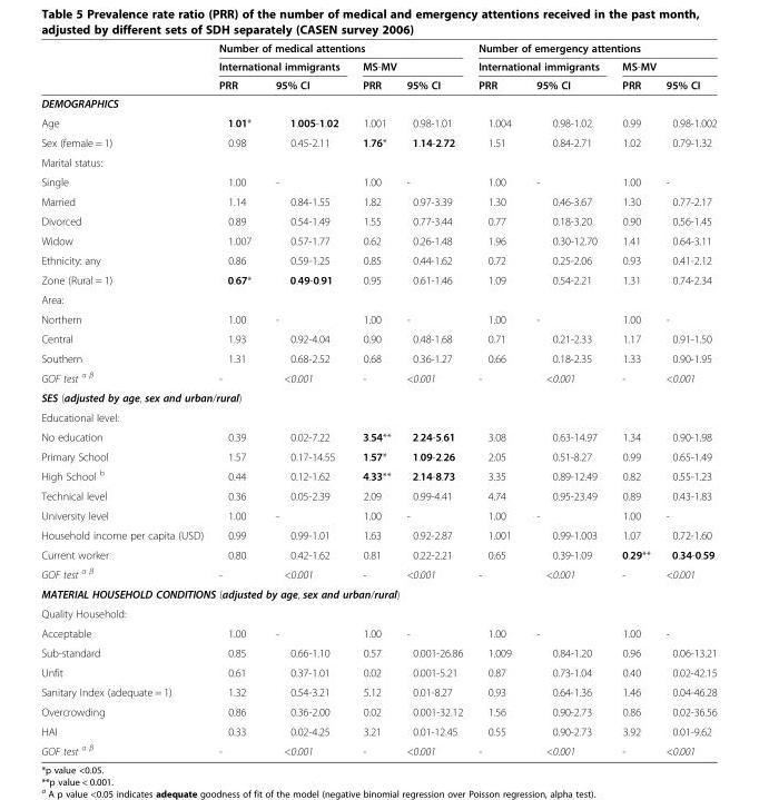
<table><thead><tr><td rowspan="3"></td><td colspan="4">Number of medical attentions</td><td colspan="4">Number of emergency attentions</td></tr><tr><td colspan="2">International immigrants</td><td colspan="2">MS-MV</td><td colspan="2">International immigrants</td><td colspan="2">MS-MV</td></tr><tr><td>PRR</td><td>95% CI</td><td>PRR</td><td>95% CI</td><td>PRR</td><td>95% CI</td><td>PRR</td><td>95% CI</td></tr></thead><tbody><tr><td colspan="9">DEMOGRAPHICS</td></tr><tr><td>Age</td><td>1.01*</td><td>1.005-1.02</td><td>1.001</td><td>0.98-1.01</td><td>1.004</td><td>0.98-1.02</td><td>0.99</td><td>0.98-1.002</td></tr><tr><td>Sex (female = 1)</td><td>0.98</td><td>0.45-2.11</td><td>1.76*</td><td>1.14-2.72</td><td>1.51</td><td>0.84-2.71</td><td>1.02</td><td>0.79-1.32</td></tr><tr><td colspan="9">Marital status:</td></tr><tr><td>Single</td><td>1.00</td><td>-</td><td>1.00</td><td>-</td><td>1.00</td><td>-</td><td>1.00</td><td>-</td></tr><tr><td>Married</td><td>1.14</td><td>0.84-1.55</td><td>1.82</td><td>0.97-3.39</td><td>1.30</td><td>0.46-3.67</td><td>1.30</td><td>0.77-2.17</td></tr><tr><td>Divorced</td><td>0.89</td><td>0.54-1.49</td><td>1.55</td><td>0.77-3.44</td><td>0.77</td><td>0.18-3.20</td><td>0.90</td><td>0.56-1.45</td></tr><tr><td>Widow</td><td>1.007</td><td>0.57-1.77</td><td>0.62</td><td>0.26-1.48</td><td>1.96</td><td>0.30-12.70</td><td>1.41</td><td>0.64-3.11</td></tr><tr><td>Ethnicity: any</td><td>0.86</td><td>0.59-1.25</td><td>0.85</td><td>0.44-1.62</td><td>0.72</td><td>0.25-2.06</td><td>0.93</td><td>0.41-2.12</td></tr><tr><td>Zone (Rural = 1)</td><td>0.67*</td><td>0.49-0.91</td><td>0.95</td><td>0.61-1.46</td><td>1.09</td><td>0.54-2.21</td><td>1.31</td><td>0.74-2.34</td></tr><tr><td colspan="9">Area:</td></tr><tr><td>Northern</td><td>1.00</td><td>-</td><td>1.00</td><td>-</td><td>1.00</td><td>-</td><td>1.00</td><td>-</td></tr><tr><td>Central</td><td>1.93</td><td>0.92-4.04</td><td>0.90</td><td>0.48-1.68</td><td>0.71</td><td>0.21-2.33</td><td>1.17</td><td>0.91-1.50</td></tr><tr><td>Southern</td><td>1.31</td><td>0.68-2.52</td><td>0.68</td><td>0.36-1.27</td><td>0.66</td><td>0.18-2.35</td><td>1.33</td><td>0.90-1.95</td></tr><tr><td>GOF test <sup>α β</sup></td><td>-</td><td>&lt;0.001</td><td>-</td><td>&lt;0.001</td><td>-</td><td>&lt;0.001</td><td>-</td><td>&lt;0.001</td></tr><tr><td colspan="9">SES (adjusted by age, sex and urban/rural)</td></tr><tr><td colspan="9">Educational level:</td></tr><tr><td>No education</td><td>0.39</td><td>0.02-7.22</td><td>3.54**</td><td>2.24-5.61</td><td>3.08</td><td>0.63-14.97</td><td>1.34</td><td>0.90-1.98</td></tr><tr><td>Primary School</td><td>1.57</td><td>0.17-14.55</td><td>1.57*</td><td>1.09-2.26</td><td>2.05</td><td>0.51-8.27</td><td>0.99</td><td>0.65-1.49</td></tr><tr><td>High School <sup>b</sup></td><td>0.44</td><td>0.12-1.62</td><td>4.33**</td><td>2.14-8.73</td><td>3.35</td><td>0.89-12.49</td><td>0.82</td><td>0.55-1.23</td></tr><tr><td>Technical level</td><td>0.36</td><td>0.05-2.39</td><td>2.09</td><td>0.99-4.41</td><td>4.74</td><td>0.95-23.49</td><td>0.89</td><td>0.43-1.83</td></tr><tr><td>University level</td><td>1.00</td><td>-</td><td>1.00</td><td>-</td><td>1.00</td><td>-</td><td>1.00</td><td>-</td></tr><tr><td>Household income per capita (USD)</td><td>0.99</td><td>0.99-1.01</td><td>1.63</td><td>0.92-2.87</td><td>1.001</td><td>0.99-1.003</td><td>1.07</td><td>0.72-1.60</td></tr><tr><td>Current worker</td><td>0.80</td><td>0.42-1.62</td><td>0.81</td><td>0.22-2.21</td><td>0.65</td><td>0.39-1.09</td><td>0.29**</td><td>0.34-0.59</td></tr><tr><td>GOF test <sup>α β</sup></td><td>-</td><td>&lt;0.001</td><td>-</td><td>&lt;0.001</td><td>-</td><td>&lt;0.001</td><td>-</td><td>&lt;0.001</td></tr><tr><td colspan="9">MATERIAL HOUSEHOLD CONDITIONS (adjusted by age, sex and urban/rural)</td></tr><tr><td colspan="9">Quality Household:</td></tr><tr><td>Acceptable</td><td>1.00</td><td>-</td><td>1.00</td><td>-</td><td>1.00</td><td>-</td><td>1.00</td><td>-</td></tr><tr><td>Sub-standard</td><td>0.85</td><td>0.66-1.10</td><td>0.57</td><td>0.001-26.86</td><td>1.009</td><td>0.84-1.20</td><td>0.96</td><td>0.06-13.21</td></tr><tr><td>Unfit</td><td>0.61</td><td>0.37-1.01</td><td>0.02</td><td>0.001-5.21</td><td>0.87</td><td>0.73-1.04</td><td>0.40</td><td>0.02-42.15</td></tr><tr><td>Sanitary Index (adequate = 1)</td><td>1.32</td><td>0.54-3.21</td><td>5.12</td><td>0.01-8.27</td><td>0.93</td><td>0.64-1.36</td><td>1.46</td><td>0.04-46.28</td></tr><tr><td>Overcrowding</td><td>0.86</td><td>0.36-2.00</td><td>0.02</td><td>0.001-32.12</td><td>1.56</td><td>0.90-2.73</td><td>0.86</td><td>0.02-36.56</td></tr><tr><td>HAI</td><td>0.33</td><td>0.02-4.25</td><td>3.21</td><td>0.01-12.45</td><td>0.55</td><td>0.90-2.73</td><td>3.92</td><td>0.01-9.62</td></tr><tr><td>GOF test <sup>α β</sup></td><td>-</td><td>&lt;0.001</td><td>-</td><td>&lt;0.001</td><td>-</td><td>&lt;0.001</td><td>-</td><td>&lt;0.001</td></tr></tbody></table>